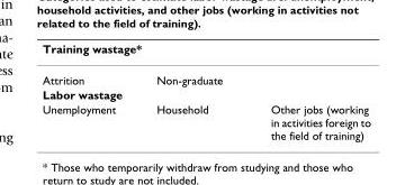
<table><thead><tr><td>Training wastage*</td><td></td><td></td></tr></thead><tbody><tr><td>Attrition</td><td>Non-graduate</td><td></td></tr><tr><td colspan="3">Labor wastage</td></tr><tr><td>Unemployment</td><td>Household</td><td>Other jobs (working in activities foreign to the field of training)</td></tr></tbody></table>